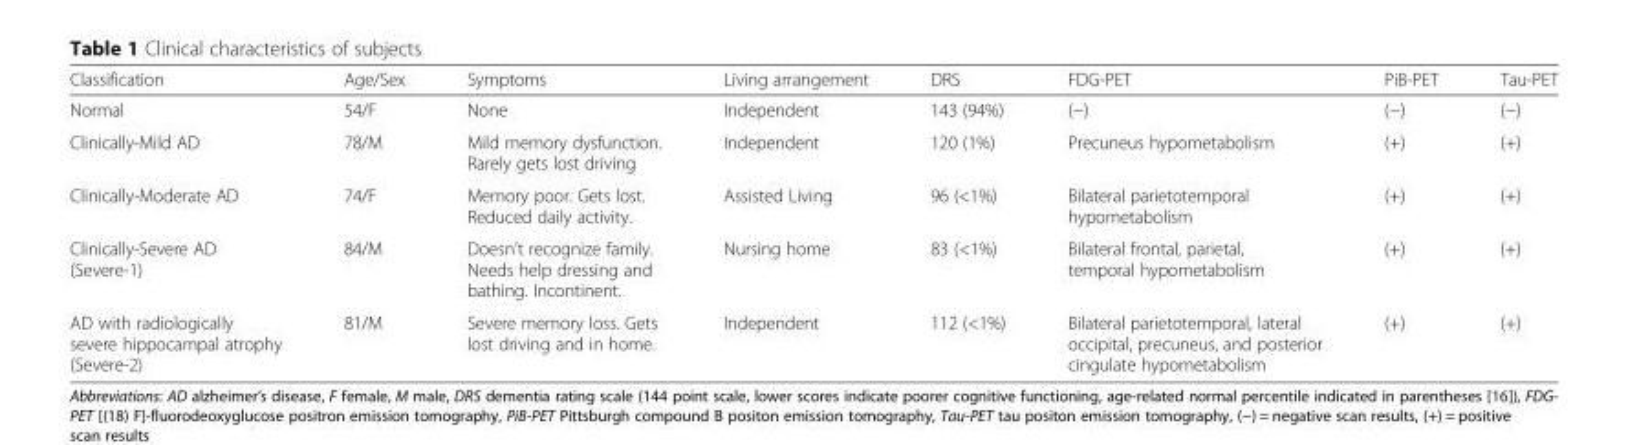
<table><thead><tr><td>Classification</td><td>Age/Sex</td><td>Symptoms</td><td>Living arrangement</td><td>DRS</td><td>FDG-PET</td><td>PiB-PET</td><td>Tau-PET</td></tr></thead><tbody><tr><td>Normal</td><td>54/F</td><td>None</td><td>Independent</td><td>143 (94%)</td><td>(−)</td><td>(−)</td><td>(−)</td></tr><tr><td>Clinically-Mild AD</td><td>78/M</td><td>Mild memory dysfunction. Rarely gets lost driving</td><td>Independent</td><td>120 (1%)</td><td>Precuneus hypometabolism</td><td>(+)</td><td>(+)</td></tr><tr><td>Clinically-Moderate AD</td><td>74/F</td><td>Memory poor. Gets lost. Reduced daily activity.</td><td>Assisted Living</td><td>96 (&lt;1%)</td><td>Bilateral parietotemporal hypometabolism</td><td>(+)</td><td>(+)</td></tr><tr><td>Clinically-Severe AD (Severe-1)</td><td>84/M</td><td>Doesn’t recognize family. Needs help dressing and bathing. Incontinent.</td><td>Nursing home</td><td>83 (&lt;1%)</td><td>Bilateral frontal, parietal, temporal hypometabolism</td><td>(+)</td><td>(+)</td></tr><tr><td>AD with radiologically severe hippocampal atrophy (Severe-2)</td><td>81/M</td><td>Severe memory loss. Gets lost driving and in home.</td><td>Independent</td><td>112 (&lt;1%)</td><td>Bilateral parietotemporal, lateral occipital, precuneus, and posterior cingulate hypometabolism</td><td>(+)</td><td>(+)</td></tr></tbody></table>